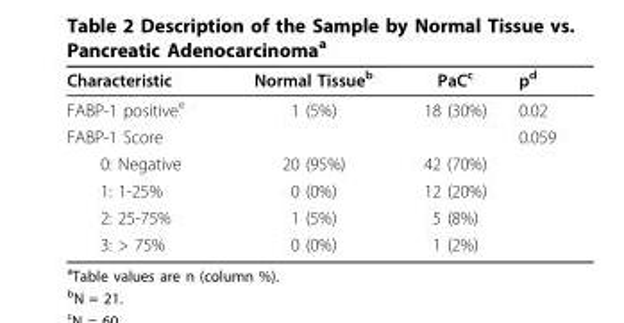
<table><thead><tr><td>Characteristic</td><td>Normal Tissue<sup>b</sup></td><td>PaC<sup>c</sup></td><td>p<sup>d</sup></td></tr></thead><tbody><tr><td>FABP-1 positive<sup>e</sup></td><td>1 (5%)</td><td>18 (30%)</td><td>0.02</td></tr><tr><td>FABP-1 Score</td><td></td><td></td><td>0.059</td></tr><tr><td>0: Negative</td><td>20 (95%)</td><td>42 (70%)</td><td></td></tr><tr><td>1: 1-25%</td><td>0 (0%)</td><td>12 (20%)</td><td></td></tr><tr><td>2: 25-75%</td><td>1 (5%)</td><td>5 (8%)</td><td></td></tr><tr><td>3: &gt; 75%</td><td>0 (0%)</td><td>1 (2%)</td><td></td></tr></tbody></table>